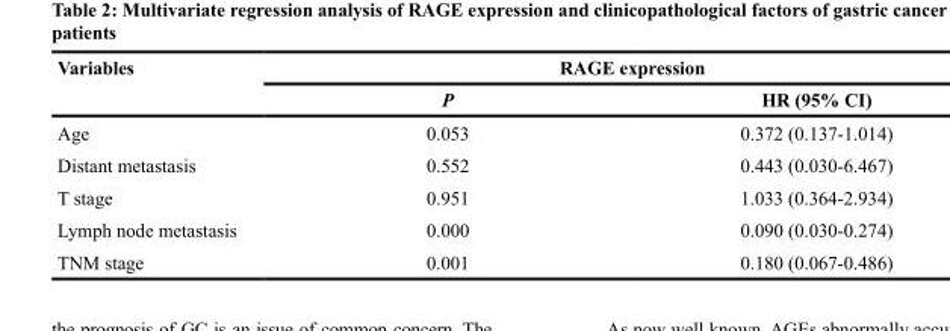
<table><thead><tr><td rowspan="2">Variables</td><td colspan="2">RAGE expression</td></tr><tr><td>P</td><td>HR (95% CI)</td></tr></thead><tbody><tr><td>Age</td><td>0.053</td><td>0.372 (0.137-1.014)</td></tr><tr><td>Distant metastasis</td><td>0.552</td><td>0.443 (0.030-6.467)</td></tr><tr><td>T stage</td><td>0.951</td><td>1.033 (0.364-2.934)</td></tr><tr><td>Lymph node metastasis</td><td>0.000</td><td>0.090 (0.030-0.274)</td></tr><tr><td>TNM stage</td><td>0.001</td><td>0.180 (0.067-0.486)</td></tr></tbody></table>